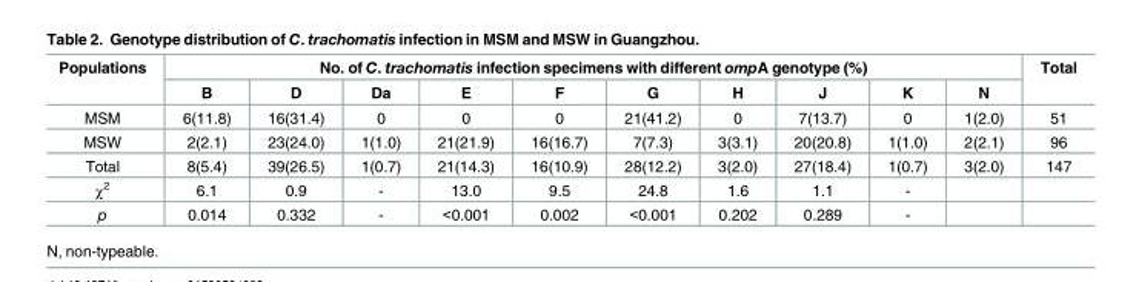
<table><thead><tr><td rowspan="2">Populations</td><td colspan="10">No. of C. trachomatis infection specimens with different ompA genotype (%)</td><td rowspan="2">Total</td></tr><tr><td>B</td><td>D</td><td>Da</td><td>E</td><td>F</td><td>G</td><td>H</td><td>J</td><td>K</td><td>N</td></tr></thead><tbody><tr><td>MSM</td><td>6(11.8)</td><td>16(31.4)</td><td>0</td><td>0</td><td>0</td><td>21(41.2)</td><td>0</td><td>7(13.7)</td><td>0</td><td>1(2.0)</td><td>51</td></tr><tr><td>MSW</td><td>2(2.1)</td><td>23(24.0)</td><td>1(1.0)</td><td>21(21.9)</td><td>16(16.7)</td><td>7(7.3)</td><td>3(3.1)</td><td>20(20.8)</td><td>1(1.0)</td><td>2(2.1)</td><td>96</td></tr><tr><td>Total</td><td>8(5.4)</td><td>39(26.5)</td><td>1(0.7)</td><td>21(14.3)</td><td>16(10.9)</td><td>28(12.2)</td><td>3(2.0)</td><td>27(18.4)</td><td>1(0.7)</td><td>3(2.0)</td><td>147</td></tr><tr><td>χ<sup>2</sup></td><td>6.1</td><td>0.9</td><td>-</td><td>13.0</td><td>9.5</td><td>24.8</td><td>1.6</td><td>1.1</td><td>-</td><td></td><td></td></tr><tr><td>p</td><td>0.014</td><td>0.332</td><td>-</td><td>&lt;0.001</td><td>0.002</td><td>&lt;0.001</td><td>0.202</td><td>0.289</td><td>-</td><td></td><td></td></tr></tbody></table>